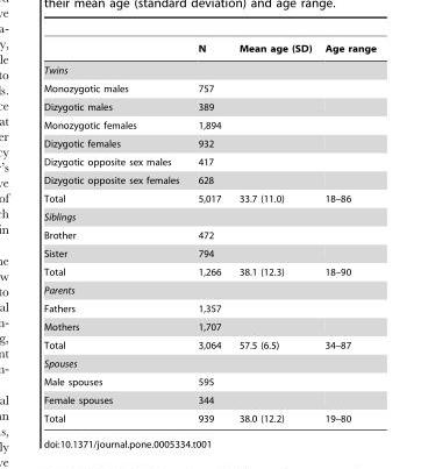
<table><thead><tr><td></td><td>N</td><td>Mean age (SD)</td><td>Age range</td></tr></thead><tbody><tr><td colspan="4">Twins</td></tr><tr><td>Monozygotic males</td><td>757</td><td></td><td></td></tr><tr><td>Dizygotic males</td><td>389</td><td></td><td></td></tr><tr><td>Monozygotic females</td><td>1,894</td><td></td><td></td></tr><tr><td>Dizygotic females</td><td>932</td><td></td><td></td></tr><tr><td>Dizygotic opposite sex males</td><td>417</td><td></td><td></td></tr><tr><td>Dizygotic opposite sex females</td><td>628</td><td></td><td></td></tr><tr><td>Total</td><td>5,017</td><td>33.7 (11.0)</td><td>18–86</td></tr><tr><td colspan="4">Siblings</td></tr><tr><td>Brother</td><td>472</td><td></td><td></td></tr><tr><td>Sister</td><td>794</td><td></td><td></td></tr><tr><td>Total</td><td>1,266</td><td>38.1 (12.3)</td><td>18–90</td></tr><tr><td colspan="4">Parents</td></tr><tr><td>Fathers</td><td>1,357</td><td></td><td></td></tr><tr><td>Mothers</td><td>1,707</td><td></td><td></td></tr><tr><td>Total</td><td>3,064</td><td>57.5 (6.5)</td><td>34–87</td></tr><tr><td colspan="4">Spouses</td></tr><tr><td>Male spouses</td><td>595</td><td></td><td></td></tr><tr><td>Female spouses</td><td>344</td><td></td><td></td></tr><tr><td>Total</td><td>939</td><td>38.0 (12.2)</td><td>19–80</td></tr></tbody></table>